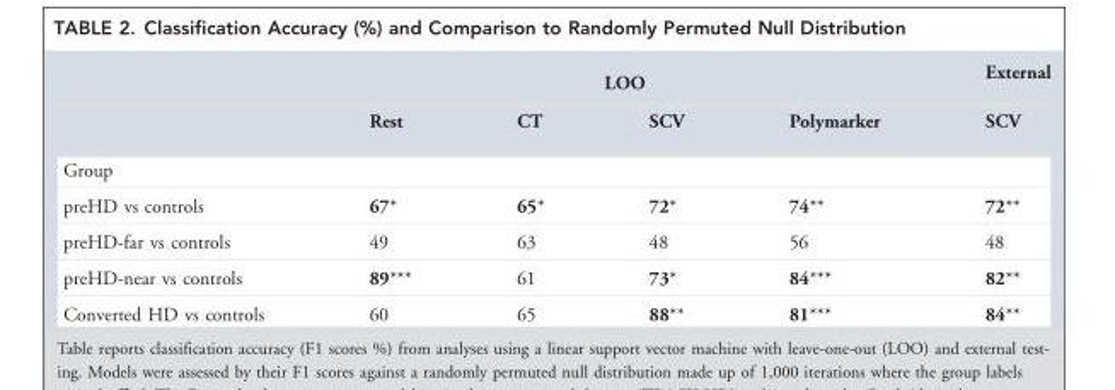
<table><thead><tr><td rowspan="2"></td><td colspan="4">LOO</td><td rowspan="2">External SCV</td></tr><tr><td>Rest</td><td>CT</td><td>SCV</td><td>Polymarker</td></tr></thead><tbody><tr><td colspan="6">Group</td></tr><tr><td>preHD vs controls</td><td>67*</td><td>65*</td><td>72*</td><td>74**</td><td>72**</td></tr><tr><td>preHD-far vs controls</td><td>49</td><td>63</td><td>48</td><td>56</td><td>48</td></tr><tr><td>preHD-near vs controls</td><td>89***</td><td>61</td><td>73*</td><td>84***</td><td>82**</td></tr><tr><td>Converted HD vs controls</td><td>60</td><td>65</td><td>88**</td><td>81***</td><td>84**</td></tr></tbody></table>